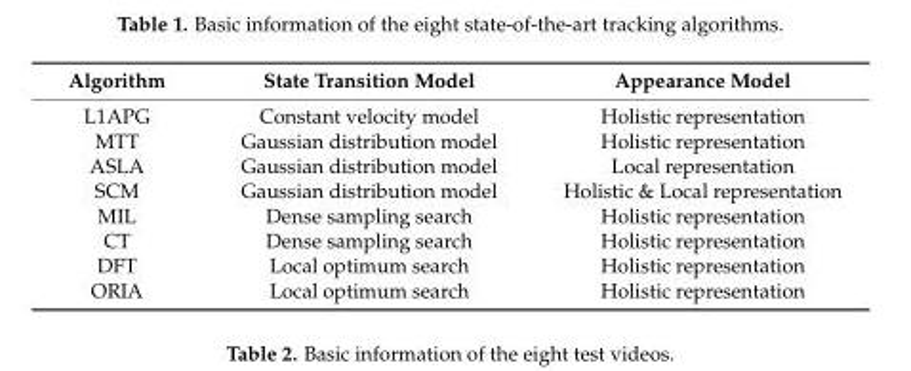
<table><thead><tr><td>Algorithm</td><td>State Transition Model</td><td>Appearance Model</td></tr></thead><tbody><tr><td>L1APG</td><td>Constant velocity model</td><td>Holistic representation</td></tr><tr><td>MTT</td><td>Gaussian distribution model</td><td>Holistic representation</td></tr><tr><td>ASLA</td><td>Gaussian distribution model</td><td>Local representation</td></tr><tr><td>SCM</td><td>Gaussian distribution model</td><td>Holistic &amp; Local representation</td></tr><tr><td>MIL</td><td>Dense sampling search</td><td>Holistic representation</td></tr><tr><td>CT</td><td>Dense sampling search</td><td>Holistic representation</td></tr><tr><td>DFT</td><td>Local optimum search</td><td>Holistic representation</td></tr><tr><td>ORIA</td><td>Local optimum search</td><td>Holistic representation</td></tr></tbody></table>